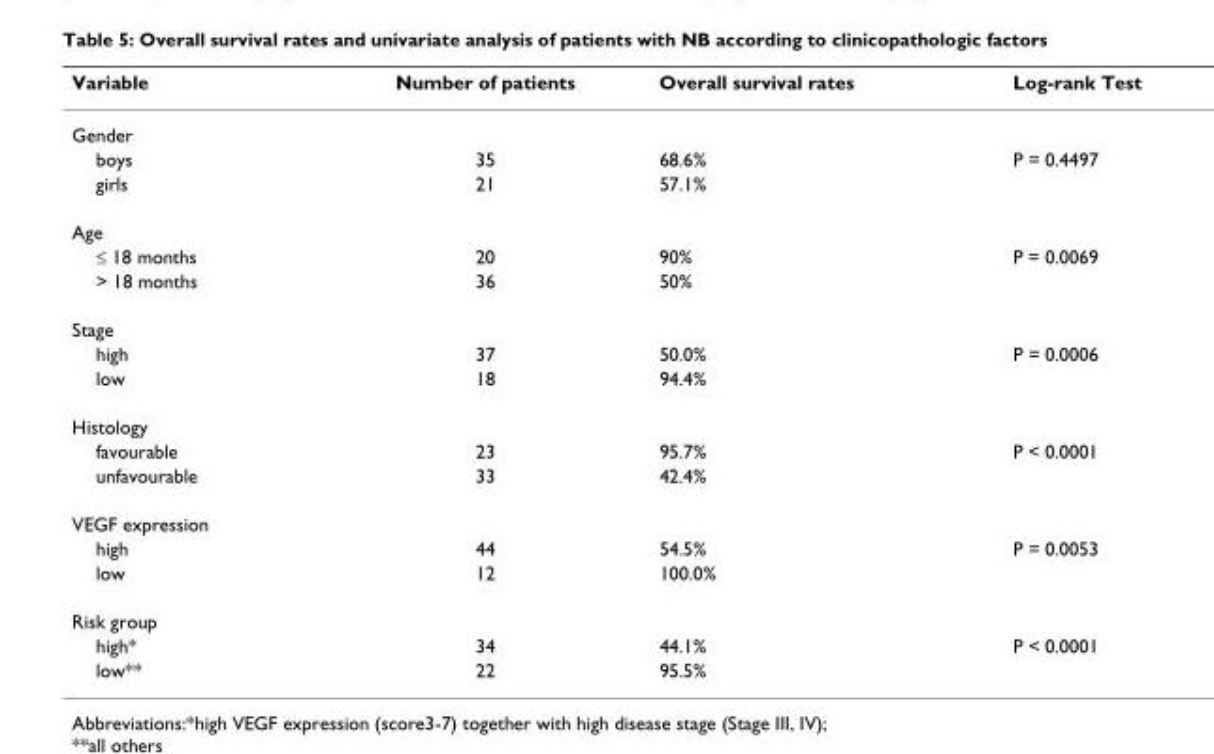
<table><thead><tr><td>Variable</td><td>Number of patients</td><td>Overall survival rates</td><td>Log-rank Test</td></tr></thead><tbody><tr><td colspan="4">Gender</td></tr><tr><td>boys</td><td>35</td><td>68.6%</td><td>P = 0.4497</td></tr><tr><td>girls</td><td>21</td><td>57.1%</td><td></td></tr><tr><td colspan="4">Age</td></tr><tr><td>≤ 18 months</td><td>20</td><td>90%</td><td>P = 0.0069</td></tr><tr><td>&gt; 18 months</td><td>36</td><td>50%</td><td></td></tr><tr><td colspan="4">Stage</td></tr><tr><td>high</td><td>37</td><td>50.0%</td><td>P = 0.0006</td></tr><tr><td>low</td><td>18</td><td>94.4%</td><td></td></tr><tr><td colspan="4">Histology</td></tr><tr><td>favourable</td><td>23</td><td>95.7%</td><td>P &lt; 0.0001</td></tr><tr><td>unfavourable</td><td>33</td><td>42.4%</td><td></td></tr><tr><td colspan="4">VEGF expression</td></tr><tr><td>high</td><td>44</td><td>54.5%</td><td>P = 0.0053</td></tr><tr><td>low</td><td>12</td><td>100.0%</td><td></td></tr><tr><td colspan="4">Risk group</td></tr><tr><td>high*</td><td>34</td><td>44.1%</td><td>P &lt; 0.0001</td></tr><tr><td>low**</td><td>22</td><td>95.5%</td><td></td></tr></tbody></table>